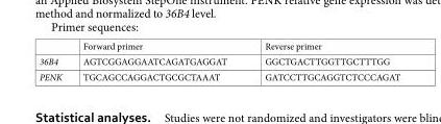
<table><thead><tr><td></td><td>Forward primer</td><td>Reverse primer</td></tr></thead><tbody><tr><td>36B4</td><td>AGTCGGAGGAATCAGATGAGGAT</td><td>GGCTGACTTGGTTGCTTTGG</td></tr><tr><td>PENK</td><td>TGCAGCCAGGACTGCGCTAAAT</td><td>GATCCTTGCAGGTCTCCCAGAT</td></tr></tbody></table>